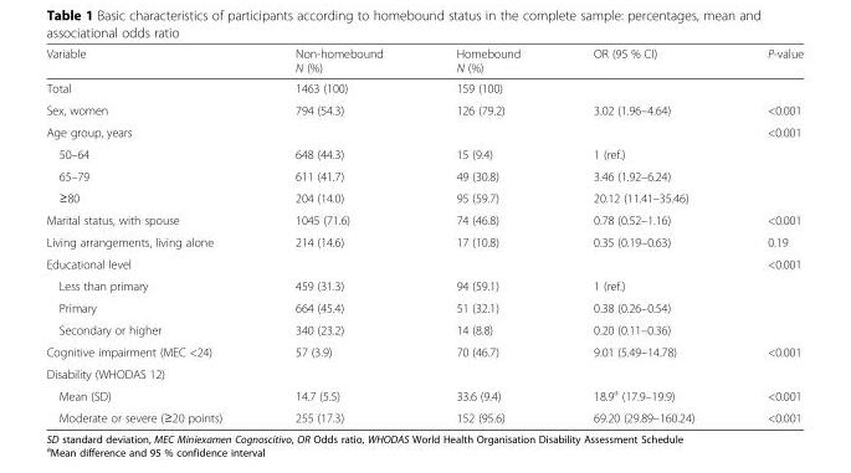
<table><thead><tr><td>Variable</td><td>Non-homebound N (%)</td><td>Homebound N (%)</td><td>OR (95 % CI)</td><td>P-value</td></tr></thead><tbody><tr><td>Total</td><td>1463 (100)</td><td>159 (100)</td><td></td><td></td></tr><tr><td>Sex, women</td><td>794 (54.3)</td><td>126 (79.2)</td><td>3.02 (1.96–4.64)</td><td>&lt;0.001</td></tr><tr><td>Age group, years</td><td></td><td></td><td></td><td>&lt;0.001</td></tr><tr><td>50–64</td><td>648 (44.3)</td><td>15 (9.4)</td><td>1 (ref.)</td><td></td></tr><tr><td>65–79</td><td>611 (41.7)</td><td>49 (30.8)</td><td>3.46 (1.92–6.24)</td><td></td></tr><tr><td>≥80</td><td>204 (14.0)</td><td>95 (59.7)</td><td>20.12 (11.41–35.46)</td><td></td></tr><tr><td>Marital status, with spouse</td><td>1045 (71.6)</td><td>74 (46.8)</td><td>0.78 (0.52–1.16)</td><td>&lt;0.001</td></tr><tr><td>Living arrangements, living alone</td><td>214 (14.6)</td><td>17 (10.8)</td><td>0.35 (0.19–0.63)</td><td>0.19</td></tr><tr><td>Educational level</td><td></td><td></td><td></td><td>&lt;0.001</td></tr><tr><td>Less than primary</td><td>459 (31.3)</td><td>94 (59.1)</td><td>1 (ref.)</td><td></td></tr><tr><td>Primary</td><td>664 (45.4)</td><td>51 (32.1)</td><td>0.38 (0.26–0.54)</td><td></td></tr><tr><td>Secondary or higher</td><td>340 (23.2)</td><td>14 (8.8)</td><td>0.20 (0.11–0.36)</td><td></td></tr><tr><td>Cognitive impairment (MEC &lt;24)</td><td>57 (3.9)</td><td>70 (46.7)</td><td>9.01 (5.49–14.78)</td><td>&lt;0.001</td></tr><tr><td colspan="5">Disability (WHODAS 12)</td></tr><tr><td>Mean (SD)</td><td>14.7 (5.5)</td><td>33.6 (9.4)</td><td>18.9<sup>a</sup> (17.9–19.9)</td><td>&lt;0.001</td></tr><tr><td>Moderate or severe (≥20 points)</td><td>255 (17.3)</td><td>152 (95.6)</td><td>69.20 (29.89–160.24)</td><td>&lt;0.001</td></tr></tbody></table>